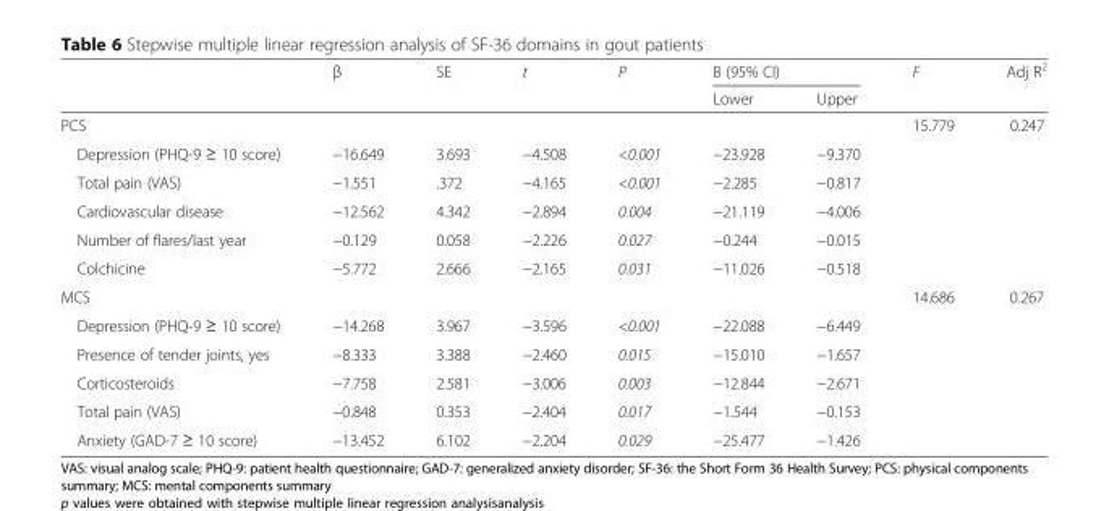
<table><thead><tr><td rowspan="2"></td><td rowspan="2">β</td><td rowspan="2">SE</td><td rowspan="2">t</td><td rowspan="2">P</td><td colspan="2">B (95% CI)</td><td rowspan="2">F</td><td rowspan="2">Adj R<sup>2</sup></td></tr><tr><td>Lower</td><td>Upper</td></tr></thead><tbody><tr><td>PCS</td><td></td><td></td><td></td><td></td><td></td><td></td><td>15.779</td><td>0.247</td></tr><tr><td>Depression (PHQ-9 ≥ 10 score)</td><td>−16.649</td><td>3.693</td><td>−4.508</td><td>&lt;0.001</td><td>−23.928</td><td>−9.370</td><td></td><td></td></tr><tr><td>Total pain (VAS)</td><td>−1.551</td><td>.372</td><td>−4.165</td><td>&lt;0.001</td><td>−2.285</td><td>−0.817</td><td></td><td></td></tr><tr><td>Cardiovascular disease</td><td>−12.562</td><td>4.342</td><td>−2.894</td><td>0.004</td><td>−21.119</td><td>−4.006</td><td></td><td></td></tr><tr><td>Number of flares/last year</td><td>−0.129</td><td>0.058</td><td>−2.226</td><td>0.027</td><td>−0.244</td><td>−0.015</td><td></td><td></td></tr><tr><td>Colchicine</td><td>−5.772</td><td>2.666</td><td>−2.165</td><td>0.031</td><td>−11.026</td><td>−0.518</td><td></td><td></td></tr><tr><td>MCS</td><td></td><td></td><td></td><td></td><td></td><td></td><td>14.686</td><td>0.267</td></tr><tr><td>Depression (PHQ-9 ≥ 10 score)</td><td>−14.268</td><td>3.967</td><td>−3.596</td><td>&lt;0.001</td><td>−22.088</td><td>−6.449</td><td></td><td></td></tr><tr><td>Presence of tender joints, yes</td><td>−8.333</td><td>3.388</td><td>−2.460</td><td>0.015</td><td>−15.010</td><td>−1.657</td><td></td><td></td></tr><tr><td>Corticosteroids</td><td>−7.758</td><td>2.581</td><td>−3.006</td><td>0.003</td><td>−12.844</td><td>−2.671</td><td></td><td></td></tr><tr><td>Total pain (VAS)</td><td>−0.848</td><td>0.353</td><td>−2.404</td><td>0.017</td><td>−1.544</td><td>−0.153</td><td></td><td></td></tr><tr><td>Anxiety (GAD-7 ≥ 10 score)</td><td>−13.452</td><td>6.102</td><td>−2.204</td><td>0.029</td><td>−25.477</td><td>−1.426</td><td></td><td></td></tr></tbody></table>